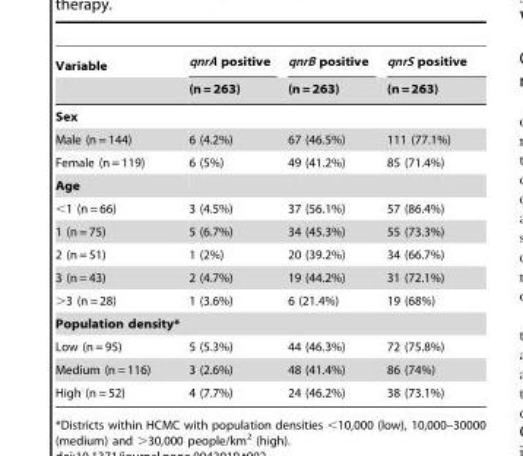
<table><thead><tr><td rowspan="2">Variable</td><td rowspan="2">qnrA positive (n = 263)</td><td rowspan="2">qnrB positive (n = 263)</td><td rowspan="2">qnrS positive (n = 263)</td></tr><tr></tr></thead><tbody><tr><td colspan="4">Sex</td></tr><tr><td>Male (n = 144)</td><td>6 (4.2%)</td><td>67 (46.5%)</td><td>111 (77.1%)</td></tr><tr><td>Female (n = 119)</td><td>6 (5%)</td><td>49 (41.2%)</td><td>85 (71.4%)</td></tr><tr><td colspan="4">Age</td></tr><tr><td>&lt;1 (n = 66)</td><td>3 (4.5%)</td><td>37 (56.1%)</td><td>57 (86.4%)</td></tr><tr><td>1 (n = 75)</td><td>5 (6.7%)</td><td>34 (45.3%)</td><td>55 (73.3%)</td></tr><tr><td>2 (n = 51)</td><td>1 (2%)</td><td>20 (39.2%)</td><td>34 (66.7%)</td></tr><tr><td>3 (n = 43)</td><td>2 (4.7%)</td><td>19 (44.2%)</td><td>31 (72.1%)</td></tr><tr><td>&gt;3 (n = 28)</td><td>1 (3.6%)</td><td>6 (21.4%)</td><td>19 (68%)</td></tr><tr><td colspan="4">Population density*</td></tr><tr><td>Low (n = 95)</td><td>5 (5.3%)</td><td>44 (46.3%)</td><td>72 (75.8%)</td></tr><tr><td>Medium (n = 116)</td><td>3 (2.6%)</td><td>48 (41.4%)</td><td>86 (74%)</td></tr><tr><td>High (n = 52)</td><td>4 (7.7%)</td><td>24 (46.2%)</td><td>38 (73.1%)</td></tr></tbody></table>